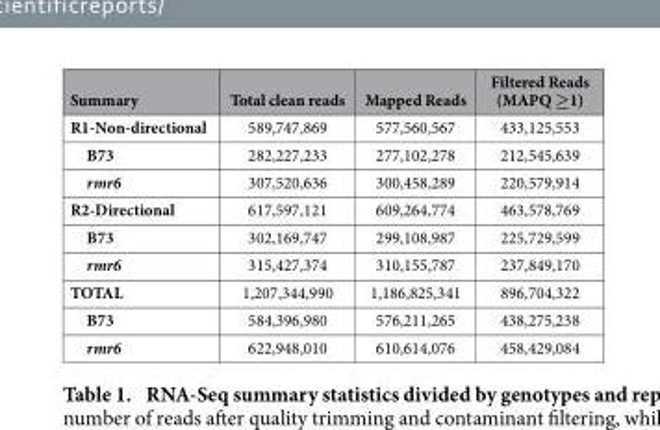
<table><thead><tr><td>Summary</td><td>Total clean reads</td><td>Mapped Reads</td><td>Filtered Reads (MAPQ ≥1)</td></tr></thead><tbody><tr><td>R1-Non-directional</td><td>589,747,869</td><td>577,560,567</td><td>433,125,553</td></tr><tr><td>B73</td><td>282,227,233</td><td>277,102,278</td><td>212,545,639</td></tr><tr><td>rmr6</td><td>307,520,636</td><td>300,458,289</td><td>220,579,914</td></tr><tr><td>R2-Directional</td><td>617,597,121</td><td>609,264,774</td><td>463,578,769</td></tr><tr><td>B73</td><td>302,169,747</td><td>299,108,987</td><td>225,729,599</td></tr><tr><td>rmr6</td><td>315,427,374</td><td>310,155,787</td><td>237,849,170</td></tr><tr><td>TOTAL</td><td>1,207,344,990</td><td>1,186,825,341</td><td>896,704,322</td></tr><tr><td>B73</td><td>584,396,980</td><td>576,211,265</td><td>438,275,238</td></tr><tr><td>rmr6</td><td>622,948,010</td><td>610,614,076</td><td>458,429,084</td></tr></tbody></table>